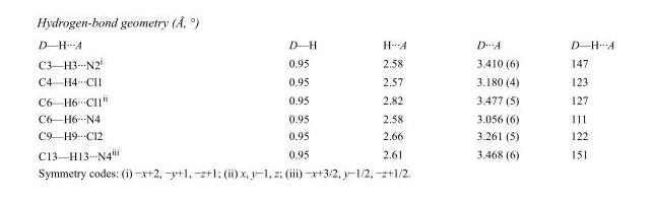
<table><tbody><tr><td>D—H···A</td><td>D—H</td><td>H···A</td><td>D···A</td><td>D—H···A</td></tr><tr><td>C3—H3···N2<sup>i</sup></td><td>0.95</td><td>2.58</td><td>3.410 (6)</td><td>147</td></tr><tr><td>C4—H4···Cl1</td><td>0.95</td><td>2.57</td><td>3.180 (4)</td><td>123</td></tr><tr><td>C6—H6···Cl1<sup>ii</sup></td><td>0.95</td><td>2.82</td><td>3.477 (5)</td><td>127</td></tr><tr><td>C6—H6···N4</td><td>0.95</td><td>2.58</td><td>3.056 (6)</td><td>111</td></tr><tr><td>C9—H9···Cl2</td><td>0.95</td><td>2.66</td><td>3.261 (5)</td><td>122</td></tr><tr><td>C13—H13···N4<sup>iii</sup></td><td>0.95</td><td>2.61</td><td>3.468 (6)</td><td>151</td></tr></tbody></table>